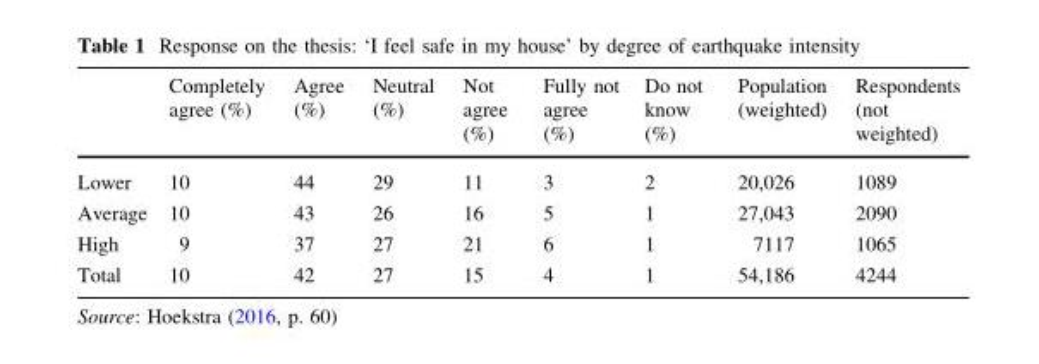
<table><thead><tr><td></td><td>Completely agree (%)</td><td>Agree (%)</td><td>Neutral (%)</td><td>Not agree (%)</td><td>Fully not agree (%)</td><td>Do not know (%)</td><td>Population (weighted)</td><td>Respondents (not weighted)</td></tr></thead><tbody><tr><td>Lower</td><td>10</td><td>44</td><td>29</td><td>11</td><td>3</td><td>2</td><td>20,026</td><td>1089</td></tr><tr><td>Average</td><td>10</td><td>43</td><td>26</td><td>16</td><td>5</td><td>1</td><td>27,043</td><td>2090</td></tr><tr><td>High</td><td>9</td><td>37</td><td>27</td><td>21</td><td>6</td><td>1</td><td>7117</td><td>1065</td></tr><tr><td>Total</td><td>10</td><td>42</td><td>27</td><td>15</td><td>4</td><td>1</td><td>54,186</td><td>4244</td></tr></tbody></table>